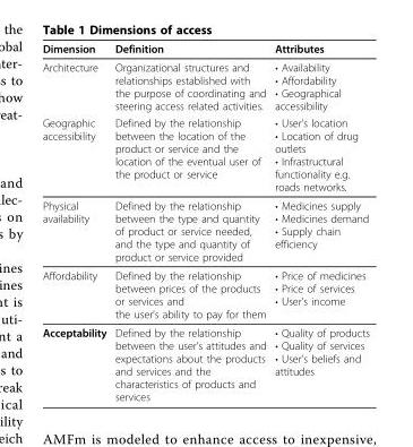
<table><thead><tr><td>Dimension</td><td>Definition</td><td>Attributes</td></tr></thead><tbody><tr><td>Architecture</td><td>Organizational structures and relationships established with the purpose of coordinating and steering access related activities.</td><td>• Availability • Affordability • Geographical accessibility</td></tr><tr><td>Geographic accessibility</td><td>Defined by the relationship between the location of the product or service and the location of the eventual user of the product or service</td><td>• User’s location • Location of drug outlets • Infrastructural functionality e.g. roads networks.</td></tr><tr><td>Physical availability</td><td>Defined by the relationship between the type and quantity of product or service needed, and the type and quantity of product or service provided</td><td>• Medicines supply • Medicines demand • Supply chain efficiency</td></tr><tr><td>Affordability</td><td>Defined by the relationship between prices of the products or services and the user’s ability to pay for them</td><td>• Price of medicines • Price of services • User’s income</td></tr><tr><td>Acceptability</td><td>Defined by the relationship between the user’s attitudes and expectations about the products and services and the characteristics of products and services</td><td>• Quality of products • Quality of services • User’s beliefs and attitudes</td></tr></tbody></table>